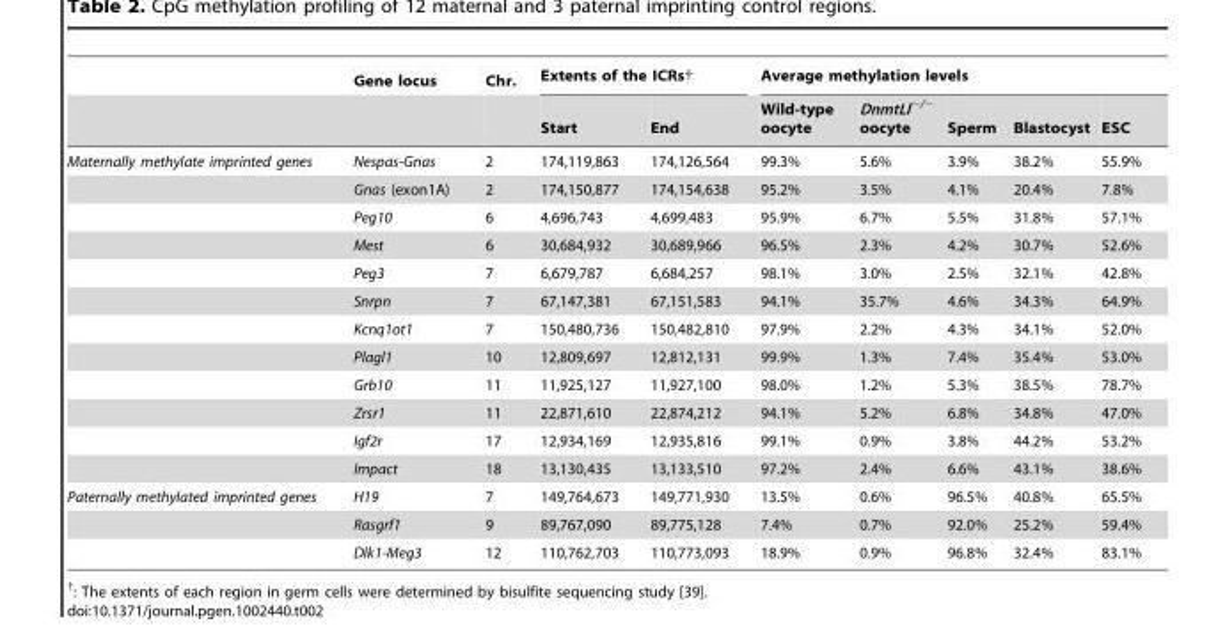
<table><thead><tr><td rowspan="2"></td><td rowspan="2">Gene locus</td><td rowspan="2">Chr.</td><td colspan="2">Extents of the ICRs†</td><td colspan="5">Average methylation levels</td></tr><tr><td>Start</td><td>End</td><td>Wild-type oocyte</td><td>DnmtLl<sup>−/−</sup> oocyte</td><td>Sperm</td><td>Blastocyst</td><td>ESC</td></tr></thead><tbody><tr><td rowspan="12">Maternally methylate imprinted genes</td><td>Nespas-Gnas</td><td>2</td><td>174,119,863</td><td>174,126,564</td><td>99.3%</td><td>5.6%</td><td>3.9%</td><td>38.2%</td><td>55.9%</td></tr><tr><td>Gnas (exon1A)</td><td>2</td><td>174,150,877</td><td>174,154,638</td><td>95.2%</td><td>3.5%</td><td>4.1%</td><td>20.4%</td><td>7.8%</td></tr><tr><td>Peg10</td><td>6</td><td>4,696,743</td><td>4,699,483</td><td>95.9%</td><td>6.7%</td><td>5.5%</td><td>31.8%</td><td>57.1%</td></tr><tr><td>Mest</td><td>6</td><td>30,684,932</td><td>30,689,966</td><td>96.5%</td><td>2.3%</td><td>4.2%</td><td>30.7%</td><td>52.6%</td></tr><tr><td>Peg3</td><td>7</td><td>6,679,787</td><td>6,684,257</td><td>98.1%</td><td>3.0%</td><td>2.5%</td><td>32.1%</td><td>42.8%</td></tr><tr><td>Snrpn</td><td>7</td><td>67,147,381</td><td>67,151,583</td><td>94.1%</td><td>35.7%</td><td>4.6%</td><td>34.3%</td><td>64.9%</td></tr><tr><td>Kcnq1ot1</td><td>7</td><td>150,480,736</td><td>150,482,810</td><td>97.9%</td><td>2.2%</td><td>4.3%</td><td>34.1%</td><td>52.0%</td></tr><tr><td>Plagl1</td><td>10</td><td>12,809,697</td><td>12,812,131</td><td>99.9%</td><td>1.3%</td><td>7.4%</td><td>35.4%</td><td>53.0%</td></tr><tr><td>Grb10</td><td>11</td><td>11,925,127</td><td>11,927,100</td><td>98.0%</td><td>1.2%</td><td>5.3%</td><td>38.5%</td><td>78.7%</td></tr><tr><td>Zrsr1</td><td>11</td><td>22,871,610</td><td>22,874,212</td><td>94.1%</td><td>5.2%</td><td>6.8%</td><td>34.8%</td><td>47.0%</td></tr><tr><td>Igf2r</td><td>17</td><td>12,934,169</td><td>12,935,816</td><td>99.1%</td><td>0.9%</td><td>3.8%</td><td>44.2%</td><td>53.2%</td></tr><tr><td>Impact</td><td>18</td><td>13,130,435</td><td>13,133,510</td><td>97.2%</td><td>2.4%</td><td>6.6%</td><td>43.1%</td><td>38.6%</td></tr><tr><td rowspan="3">Paternally methylated imprinted genes</td><td>H19</td><td>7</td><td>149,764,673</td><td>149,771,930</td><td>13.5%</td><td>0.6%</td><td>96.5%</td><td>40.8%</td><td>65.5%</td></tr><tr><td>Rasgrf1</td><td>9</td><td>89,767,090</td><td>89,775,128</td><td>7.4%</td><td>0.7%</td><td>92.0%</td><td>25.2%</td><td>59.4%</td></tr><tr><td>Dlk1-Meg3</td><td>12</td><td>110,762,703</td><td>110,773,093</td><td>18.9%</td><td>0.9%</td><td>96.8%</td><td>32.4%</td><td>83.1%</td></tr></tbody></table>